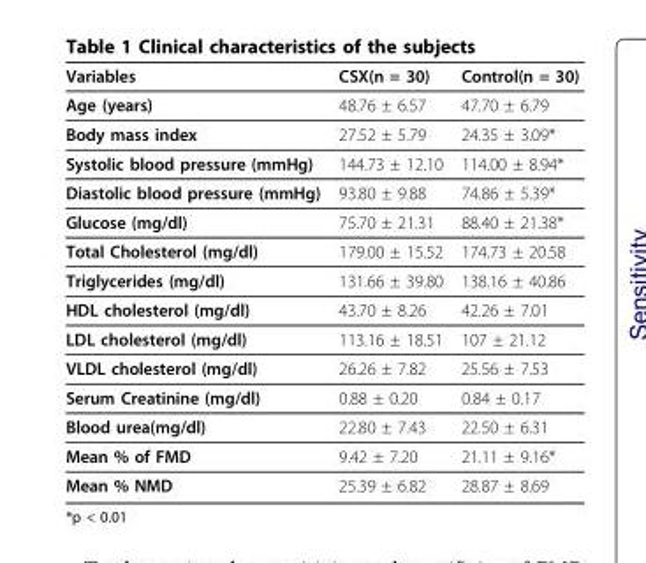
<table><thead><tr><td>Variables</td><td>CSX(n = 30)</td><td>Control(n = 30)</td></tr></thead><tbody><tr><td>Age (years)</td><td>48.76 ± 6.57</td><td>47.70 ± 6.79</td></tr><tr><td>Body mass index</td><td>27.52 ± 5.79</td><td>24.35 ± 3.09*</td></tr><tr><td>Systolic blood pressure (mmHg)</td><td>144.73 ± 12.10</td><td>114.00 ± 8.94*</td></tr><tr><td>Diastolic blood pressure (mmHg)</td><td>93.80 ± 9.88</td><td>74.86 ± 5.39*</td></tr><tr><td>Glucose (mg/dl)</td><td>75.70 ± 21.31</td><td>88.40 ± 21.38*</td></tr><tr><td>Total Cholesterol (mg/dl)</td><td>179.00 ± 15.52</td><td>174.73 ± 20.58</td></tr><tr><td>Triglycerides (mg/dl)</td><td>131.66 ± 39.80</td><td>138.16 ± 40.86</td></tr><tr><td>HDL cholesterol (mg/dl)</td><td>43.70 ± 8.26</td><td>42.26 ± 7.01</td></tr><tr><td>LDL cholesterol (mg/dl)</td><td>113.16 ± 18.51</td><td>107 ± 21.12</td></tr><tr><td>VLDL cholesterol (mg/dl)</td><td>26.26 ± 7.82</td><td>25.56 ± 7.53</td></tr><tr><td>Serum Creatinine (mg/dl)</td><td>0.88 ± 0.20</td><td>0.84 ± 0.17</td></tr><tr><td>Blood urea(mg/dl)</td><td>22.80 ± 7.43</td><td>22.50 ± 6.31</td></tr><tr><td>Mean % of FMD</td><td>9.42 ± 7.20</td><td>21.11 ± 9.16*</td></tr><tr><td>Mean % NMD</td><td>25.39 ± 6.82</td><td>28.87 ± 8.69</td></tr></tbody></table>